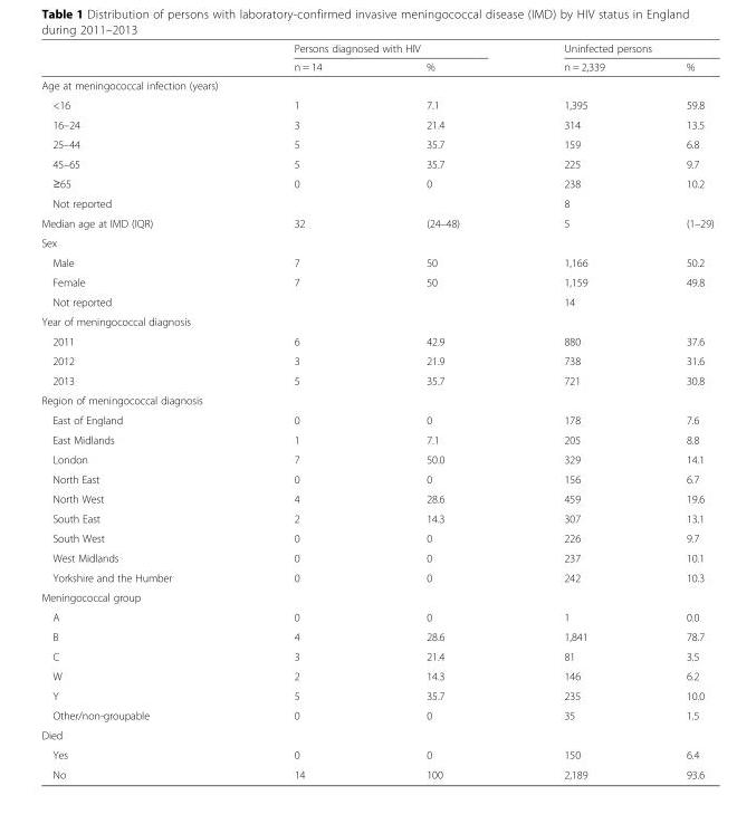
<table><thead><tr><td rowspan="2"></td><td colspan="2">Persons diagnosed with HIV</td><td colspan="2">Uninfected persons</td></tr><tr><td>n = 14</td><td>%</td><td>n = 2,339</td><td>%</td></tr></thead><tbody><tr><td colspan="5">Age at meningococcal infection (years)</td></tr><tr><td>&lt;16</td><td>1</td><td>7.1</td><td>1,395</td><td>59.8</td></tr><tr><td>16–24</td><td>3</td><td>21.4</td><td>314</td><td>13.5</td></tr><tr><td>25–44</td><td>5</td><td>35.7</td><td>159</td><td>6.8</td></tr><tr><td>45–65</td><td>5</td><td>35.7</td><td>225</td><td>9.7</td></tr><tr><td>≥65</td><td>0</td><td>0</td><td>238</td><td>10.2</td></tr><tr><td>Not reported</td><td></td><td></td><td>8</td><td></td></tr><tr><td>Median age at IMD (IQR)</td><td>32</td><td>(24–48)</td><td>5</td><td>(1–29)</td></tr><tr><td colspan="5">Sex</td></tr><tr><td>Male</td><td>7</td><td>50</td><td>1,166</td><td>50.2</td></tr><tr><td>Female</td><td>7</td><td>50</td><td>1,159</td><td>49.8</td></tr><tr><td>Not reported</td><td></td><td></td><td>14</td><td></td></tr><tr><td colspan="5">Year of meningococcal diagnosis</td></tr><tr><td>2011</td><td>6</td><td>42.9</td><td>880</td><td>37.6</td></tr><tr><td>2012</td><td>3</td><td>21.9</td><td>738</td><td>31.6</td></tr><tr><td>2013</td><td>5</td><td>35.7</td><td>721</td><td>30.8</td></tr><tr><td colspan="5">Region of meningococcal diagnosis</td></tr><tr><td>East of England</td><td>0</td><td>0</td><td>178</td><td>7.6</td></tr><tr><td>East Midlands</td><td>1</td><td>7.1</td><td>205</td><td>8.8</td></tr><tr><td>London</td><td>7</td><td>50.0</td><td>329</td><td>14.1</td></tr><tr><td>North East</td><td>0</td><td>0</td><td>156</td><td>6.7</td></tr><tr><td>North West</td><td>4</td><td>28.6</td><td>459</td><td>19.6</td></tr><tr><td>South East</td><td>2</td><td>14.3</td><td>307</td><td>13.1</td></tr><tr><td>South West</td><td>0</td><td>0</td><td>226</td><td>9.7</td></tr><tr><td>West Midlands</td><td>0</td><td>0</td><td>237</td><td>10.1</td></tr><tr><td>Yorkshire and the Humber</td><td>0</td><td>0</td><td>242</td><td>10.3</td></tr><tr><td colspan="5">Meningococcal group</td></tr><tr><td>A</td><td>0</td><td>0</td><td>1</td><td>0.0</td></tr><tr><td>B</td><td>4</td><td>28.6</td><td>1,841</td><td>78.7</td></tr><tr><td>C</td><td>3</td><td>21.4</td><td>81</td><td>3.5</td></tr><tr><td>W</td><td>2</td><td>14.3</td><td>146</td><td>6.2</td></tr><tr><td>Y</td><td>5</td><td>35.7</td><td>235</td><td>10.0</td></tr><tr><td>Other/non-groupable</td><td>0</td><td>0</td><td>35</td><td>1.5</td></tr><tr><td colspan="5">Died</td></tr><tr><td>Yes</td><td>0</td><td>0</td><td>150</td><td>6.4</td></tr><tr><td>No</td><td>14</td><td>100</td><td>2,189</td><td>93.6</td></tr></tbody></table>